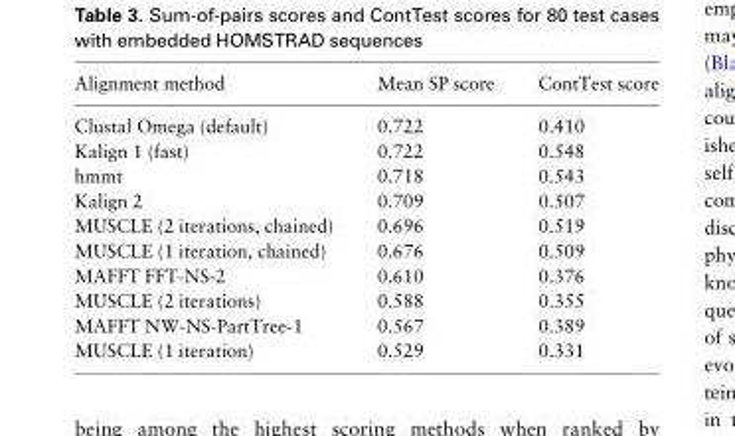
<table><thead><tr><td>Alignment method</td><td>Mean SP score</td><td>ContTest score</td></tr></thead><tbody><tr><td>Clustal Omega (default)</td><td>0.722</td><td>0.410</td></tr><tr><td>Kalign 1 (fast)</td><td>0.722</td><td>0.548</td></tr><tr><td>hmmt</td><td>0.718</td><td>0.543</td></tr><tr><td>Kalign 2</td><td>0.709</td><td>0.507</td></tr><tr><td>MUSCLE (2 iterations, chained)</td><td>0.696</td><td>0.519</td></tr><tr><td>MUSCLE (1 iteration, chained)</td><td>0.676</td><td>0.509</td></tr><tr><td>MAFFT FFT-NS-2</td><td>0.610</td><td>0.376</td></tr><tr><td>MUSCLE (2 iterations)</td><td>0.588</td><td>0.355</td></tr><tr><td>MAFFT NW-NS-PartTree-1</td><td>0.567</td><td>0.389</td></tr><tr><td>MUSCLE (1 iteration)</td><td>0.529</td><td>0.331</td></tr></tbody></table>